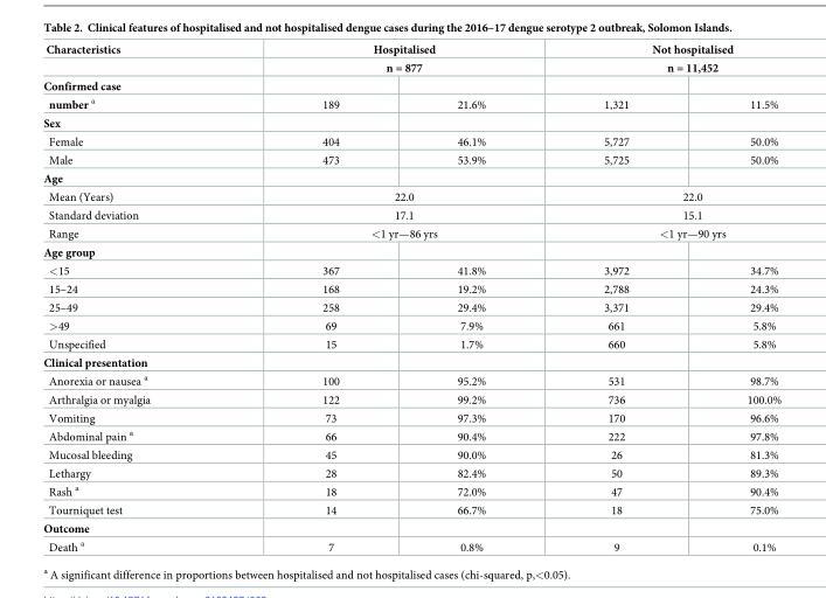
<table><thead><tr><td rowspan="3">Characteristics Confirmed case</td><td rowspan="2" colspan="2">Hospitalised n = 877</td><td rowspan="2" colspan="2">Not hospitalised n = 11,452</td></tr><tr></tr><tr><td></td><td></td><td></td><td></td></tr></thead><tbody><tr><td>number <sup>a</sup></td><td>189</td><td>21.6%</td><td>1,321</td><td>11.5%</td></tr><tr><td colspan="5">Sex</td></tr><tr><td>Female</td><td>404</td><td>46.1%</td><td>5,727</td><td>50.0%</td></tr><tr><td>Male</td><td>473</td><td>53.9%</td><td>5,725</td><td>50.0%</td></tr><tr><td colspan="5">Age</td></tr><tr><td>Mean (Years)</td><td colspan="2">22.0</td><td colspan="2">22.0</td></tr><tr><td>Standard deviation</td><td colspan="2">17.1</td><td colspan="2">15.1</td></tr><tr><td>Range</td><td colspan="2">&lt;1 yr—86 yrs</td><td colspan="2">&lt;1 yr—90 yrs</td></tr><tr><td colspan="5">Age group</td></tr><tr><td>&lt;15</td><td>367</td><td>41.8%</td><td>3,972</td><td>34.7%</td></tr><tr><td>15–24</td><td>168</td><td>19.2%</td><td>2,788</td><td>24.3%</td></tr><tr><td>25–49</td><td>258</td><td>29.4%</td><td>3,371</td><td>29.4%</td></tr><tr><td>&gt;49</td><td>69</td><td>7.9%</td><td>661</td><td>5.8%</td></tr><tr><td>Unspecified</td><td>15</td><td>1.7%</td><td>660</td><td>5.8%</td></tr><tr><td colspan="5">Clinical presentation</td></tr><tr><td>Anorexia or nausea <sup>a</sup></td><td>100</td><td>95.2%</td><td>531</td><td>98.7%</td></tr><tr><td>Arthralgia or myalgia</td><td>122</td><td>99.2%</td><td>736</td><td>100.0%</td></tr><tr><td>Vomiting</td><td>73</td><td>97.3%</td><td>170</td><td>96.6%</td></tr><tr><td>Abdominal pain <sup>a</sup></td><td>66</td><td>90.4%</td><td>222</td><td>97.8%</td></tr><tr><td>Mucosal bleeding</td><td>45</td><td>90.0%</td><td>26</td><td>81.3%</td></tr><tr><td>Lethargy</td><td>28</td><td>82.4%</td><td>50</td><td>89.3%</td></tr><tr><td>Rash <sup>a</sup></td><td>18</td><td>72.0%</td><td>47</td><td>90.4%</td></tr><tr><td>Tourniquet test</td><td>14</td><td>66.7%</td><td>18</td><td>75.0%</td></tr><tr><td colspan="5">Outcome</td></tr><tr><td>Death <sup>a</sup></td><td>7</td><td>0.8%</td><td>9</td><td>0.1%</td></tr></tbody></table>